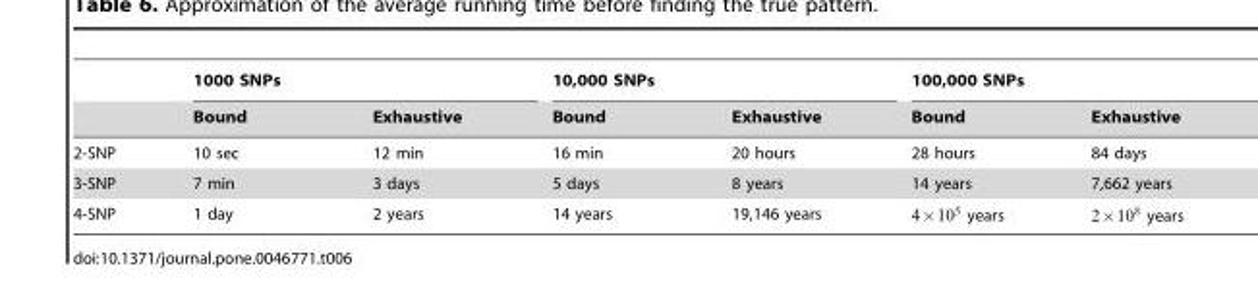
<table><thead><tr><td rowspan="2"></td><td colspan="2">1000 SNPs</td><td colspan="2">10,000 SNPs</td><td colspan="2">100,000 SNPs</td></tr><tr><td>Bound</td><td>Exhaustive</td><td>Bound</td><td>Exhaustive</td><td>Bound</td><td>Exhaustive</td></tr></thead><tbody><tr><td>2-SNP</td><td>10 sec</td><td>12 min</td><td>16 min</td><td>20 hours</td><td>28 hours</td><td>84 days</td></tr><tr><td>3-SNP</td><td>7 min</td><td>3 days</td><td>5 days</td><td>8 years</td><td>14 years</td><td>7,662 years</td></tr><tr><td>4-SNP</td><td>1 day</td><td>2 years</td><td>14 years</td><td>19,146 years</td><td>4|105 years</td><td>2|108 years</td></tr></tbody></table>